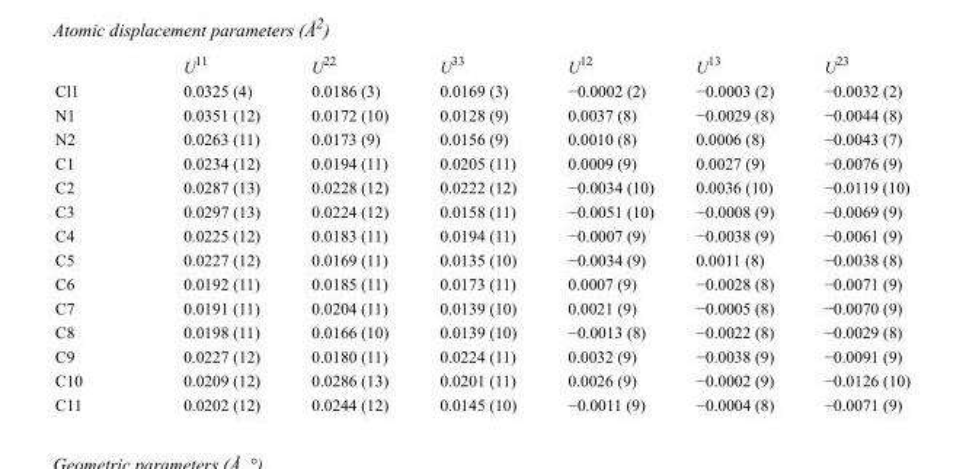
<table><thead><tr><td></td><td>U<sup>11</sup></td><td>U<sup>22</sup></td><td>U<sup>33</sup></td><td>U<sup>12</sup></td><td>U<sup>13</sup></td><td>U<sup>23</sup></td></tr></thead><tbody><tr><td>Cl1</td><td>0.0325 (4)</td><td>0.0186 (3)</td><td>0.0169 (3)</td><td>−0.0002 (2)</td><td>−0.0003 (2)</td><td>−0.0032 (2)</td></tr><tr><td>N1</td><td>0.0351 (12)</td><td>0.0172 (10)</td><td>0.0128 (9)</td><td>0.0037 (8)</td><td>−0.0029 (8)</td><td>−0.0044 (8)</td></tr><tr><td>N2</td><td>0.0263 (11)</td><td>0.0173 (9)</td><td>0.0156 (9)</td><td>0.0010 (8)</td><td>0.0006 (8)</td><td>−0.0043 (7)</td></tr><tr><td>C1</td><td>0.0234 (12)</td><td>0.0194 (11)</td><td>0.0205 (11)</td><td>0.0009 (9)</td><td>0.0027 (9)</td><td>−0.0076 (9)</td></tr><tr><td>C2</td><td>0.0287 (13)</td><td>0.0228 (12)</td><td>0.0222 (12)</td><td>−0.0034 (10)</td><td>0.0036 (10)</td><td>−0.0119 (10)</td></tr><tr><td>C3</td><td>0.0297 (13)</td><td>0.0224 (12)</td><td>0.0158 (11)</td><td>−0.0051 (10)</td><td>−0.0008 (9)</td><td>−0.0069 (9)</td></tr><tr><td>C4</td><td>0.0225 (12)</td><td>0.0183 (11)</td><td>0.0194 (11)</td><td>−0.0007 (9)</td><td>−0.0038 (9)</td><td>−0.0061 (9)</td></tr><tr><td>C5</td><td>0.0227 (12)</td><td>0.0169 (11)</td><td>0.0135 (10)</td><td>−0.0034 (9)</td><td>0.0011 (8)</td><td>−0.0038 (8)</td></tr><tr><td>C6</td><td>0.0192 (11)</td><td>0.0185 (11)</td><td>0.0173 (11)</td><td>0.0007 (9)</td><td>−0.0028 (8)</td><td>−0.0071 (9)</td></tr><tr><td>C7</td><td>0.0191 (11)</td><td>0.0204 (11)</td><td>0.0139 (10)</td><td>0.0021 (9)</td><td>−0.0005 (8)</td><td>−0.0070 (9)</td></tr><tr><td>C8</td><td>0.0198 (11)</td><td>0.0166 (10)</td><td>0.0139 (10)</td><td>−0.0013 (8)</td><td>−0.0022 (8)</td><td>−0.0029 (8)</td></tr><tr><td>C9</td><td>0.0227 (12)</td><td>0.0180 (11)</td><td>0.0224 (11)</td><td>0.0032 (9)</td><td>−0.0038 (9)</td><td>−0.0091 (9)</td></tr><tr><td>C10</td><td>0.0209 (12)</td><td>0.0286 (13)</td><td>0.0201 (11)</td><td>0.0026 (9)</td><td>−0.0002 (9)</td><td>−0.0126 (10)</td></tr><tr><td>C11</td><td>0.0202 (12)</td><td>0.0244 (12)</td><td>0.0145 (10)</td><td>−0.0011 (9)</td><td>−0.0004 (8)</td><td>−0.0071 (9)</td></tr></tbody></table>